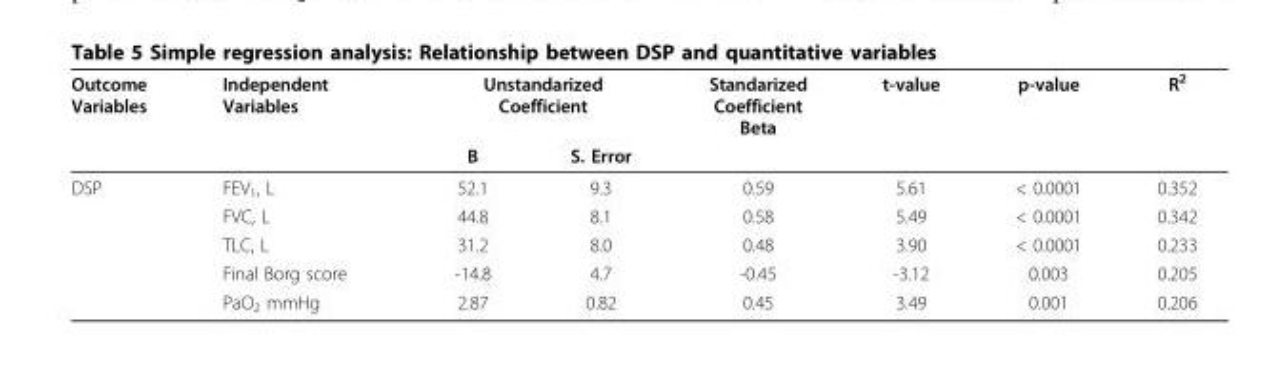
<table><thead><tr><td rowspan="2">Outcome Variables</td><td rowspan="2">Independent Variables</td><td colspan="2">Unstandarized Coefficient</td><td rowspan="2">Standarized Coefficient Beta</td><td rowspan="2">t-value</td><td rowspan="2">p-value</td><td rowspan="2">R<sup>2</sup></td></tr><tr><td>B</td><td>S. Error</td></tr></thead><tbody><tr><td rowspan="5">DSP</td><td>FEV<sub>1</sub>, L</td><td>52.1</td><td>9.3</td><td>0.59</td><td>5.61</td><td>&lt; 0.0001</td><td>0.352</td></tr><tr><td>FVC, L</td><td>44.8</td><td>8.1</td><td>0.58</td><td>5.49</td><td>&lt; 0.0001</td><td>0.342</td></tr><tr><td>TLC, L</td><td>31.2</td><td>8.0</td><td>0.48</td><td>3.90</td><td>&lt; 0.0001</td><td>0.233</td></tr><tr><td>Final Borg score</td><td>-14.8</td><td>4.7</td><td>-0.45</td><td>-3.12</td><td>0.003</td><td>0.205</td></tr><tr><td>PaO<sub>2</sub> mmHg</td><td>2.87</td><td>0.82</td><td>0.45</td><td>3.49</td><td>0.001</td><td>0.206</td></tr></tbody></table>